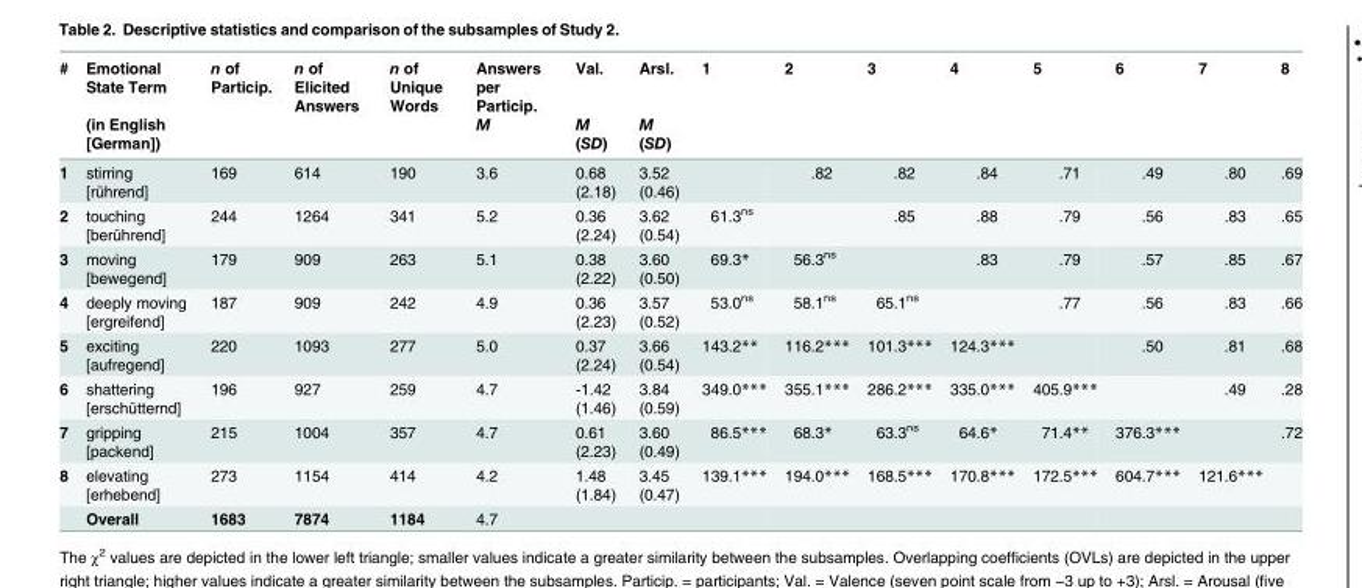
<table><thead><tr><td rowspan="2">#</td><td rowspan="2">Emotional State Term (in English [German])</td><td rowspan="2">n of Particip.</td><td rowspan="2">n of Elicited Answers</td><td rowspan="2">n of Unique Words</td><td rowspan="2">Answers per Particip. M</td><td rowspan="2">Val. M (SD)</td><td rowspan="2">Arsl. M (SD)</td><td rowspan="2">1</td><td rowspan="2">2</td><td rowspan="2">3</td><td rowspan="2">4</td><td rowspan="2">5</td><td rowspan="2">6</td><td rowspan="2">7</td><td rowspan="2">8</td></tr><tr></tr></thead><tbody><tr><td>1</td><td>stirring [rührend]</td><td>169</td><td>614</td><td>190</td><td>3.6</td><td>0.68 (2.18)</td><td>3.52 (0.46)</td><td></td><td>.82</td><td>.82</td><td>.84</td><td>.71</td><td>.49</td><td>.80</td><td>.69</td></tr><tr><td>2</td><td>touching [berührend]</td><td>244</td><td>1264</td><td>341</td><td>5.2</td><td>0.36 (2.24)</td><td>3.62 (0.54)</td><td>61.3<sup>ns</sup></td><td></td><td>.85</td><td>.88</td><td>.79</td><td>.56</td><td>.83</td><td>.65</td></tr><tr><td>3</td><td>moving [bewegend]</td><td>179</td><td>909</td><td>263</td><td>5.1</td><td>0.38 (2.22)</td><td>3.60 (0.50)</td><td>69.3*</td><td>56.3<sup>ns</sup></td><td></td><td>.83</td><td>.79</td><td>.57</td><td>.85</td><td>.67</td></tr><tr><td>4</td><td>deeply moving [ergreifend]</td><td>187</td><td>909</td><td>242</td><td>4.9</td><td>0.36 (2.23)</td><td>3.57 (0.52)</td><td>53.0<sup>ns</sup></td><td>58.1<sup>ns</sup></td><td>65.1<sup>ns</sup></td><td></td><td>.77</td><td>.56</td><td>.83</td><td>.66</td></tr><tr><td>5</td><td>exciting [aufregend]</td><td>220</td><td>1093</td><td>277</td><td>5.0</td><td>0.37 (2.24)</td><td>3.66 (0.54)</td><td>143.2**</td><td>116.2***</td><td>101.3***</td><td>124.3***</td><td></td><td>.50</td><td>.81</td><td>.68</td></tr><tr><td>6</td><td>shattering [erschütternd]</td><td>196</td><td>927</td><td>259</td><td>4.7</td><td>-1.42 (1.46)</td><td>3.84 (0.59)</td><td>349.0***</td><td>355.1***</td><td>286.2***</td><td>335.0***</td><td>405.9***</td><td></td><td>.49</td><td>.28</td></tr><tr><td>7</td><td>gripping [packend]</td><td>215</td><td>1004</td><td>357</td><td>4.7</td><td>0.61 (2.23)</td><td>3.60 (0.49)</td><td>86.5***</td><td>68.3*</td><td>63.3<sup>ns</sup></td><td>64.6*</td><td>71.4**</td><td>376.3***</td><td></td><td>.72</td></tr><tr><td rowspan="2">8</td><td>elevating [erhebend]</td><td>273</td><td>1154</td><td>414</td><td>4.2</td><td>1.48 (1.84)</td><td>3.45 (0.47)</td><td>139.1***</td><td>194.0***</td><td>168.5***</td><td>170.8***</td><td>172.5***</td><td>604.7***</td><td>121.6***</td><td></td></tr><tr><td>Overall</td><td>1683</td><td>7874</td><td>1184</td><td>4.7</td><td></td><td></td><td></td><td></td><td></td><td></td><td></td><td></td><td></td><td></td></tr></tbody></table>